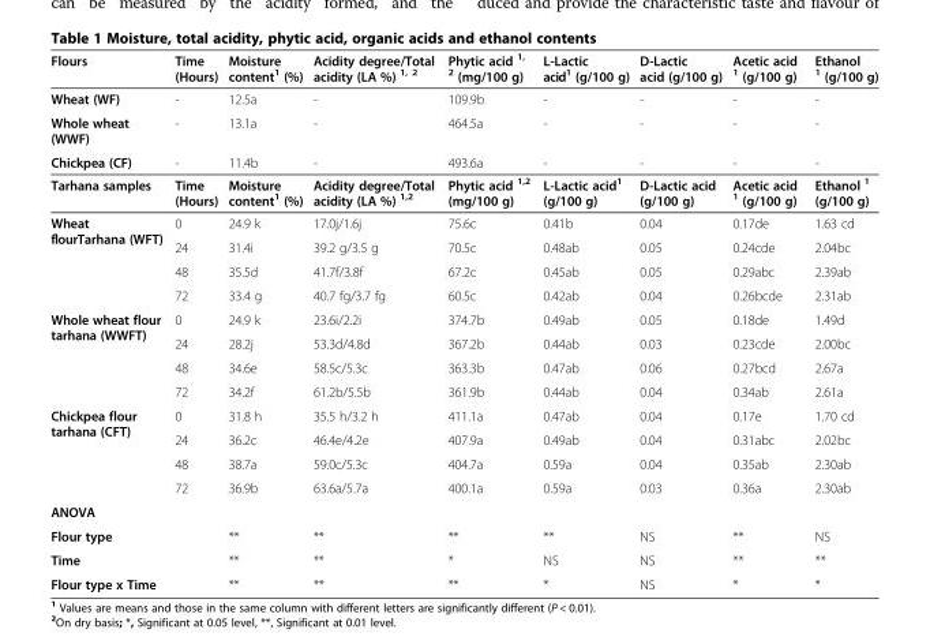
<table><thead><tr><td>Flours</td><td>Time (Hours)</td><td>Moisture content<sup>1</sup> (%)</td><td>Acidity degree/Total acidity (LA %) <sup>1, 2</sup></td><td>Phytic acid <sup>1, 2</sup> (mg/100 g)</td><td>L-Lactic acid<sup>1</sup> (g/100 g)</td><td>D-Lactic acid (g/100 g)</td><td>Acetic acid <sup>1</sup> (g/100 g)</td><td>Ethanol <sup>1</sup> (g/100 g)</td></tr></thead><tbody><tr><td>Wheat (WF)</td><td>-</td><td>12.5a</td><td>-</td><td>109.9b</td><td>-</td><td>-</td><td>-</td><td>-</td></tr><tr><td>Whole wheat (WWF)</td><td>-</td><td>13.1a</td><td>-</td><td>464.5a</td><td>-</td><td>-</td><td>-</td><td>-</td></tr><tr><td>Chickpea (CF)</td><td>-</td><td>11.4b</td><td>-</td><td>493.6a</td><td>-</td><td>-</td><td>-</td><td>-</td></tr><tr><td>Tarhana samples</td><td>Time (Hours)</td><td>Moisture content<sup>1</sup> (%)</td><td>Acidity degree/Total acidity (LA %) <sup>1,2</sup></td><td>Phytic acid <sup>1,2</sup> (mg/100 g)</td><td>L-Lactic acid<sup>1</sup> (g/100 g)</td><td>D-Lactic acid (g/100 g)</td><td>Acetic acid <sup>1</sup> (g/100 g)</td><td>Ethanol <sup>1</sup> (g/100 g)</td></tr><tr><td rowspan="4">Wheat flourTarhana (WFT)</td><td>0</td><td>24.9 k</td><td>17.0j/1.6j</td><td>75.6c</td><td>0.41b</td><td>0.04</td><td>0.17de</td><td>1.63 cd</td></tr><tr><td>24</td><td>31.4i</td><td>39.2 g/3.5 g</td><td>70.5c</td><td>0.48ab</td><td>0.05</td><td>0.24cde</td><td>2.04bc</td></tr><tr><td>48</td><td>35.5d</td><td>41.7f/3.8f</td><td>67.2c</td><td>0.45ab</td><td>0.05</td><td>0.29abc</td><td>2.39ab</td></tr><tr><td>72</td><td>33.4 g</td><td>40.7 fg/3.7 fg</td><td>60.5c</td><td>0.42ab</td><td>0.04</td><td>0.26bcde</td><td>2.31ab</td></tr><tr><td rowspan="4">Whole wheat flour tarhana (WWFT)</td><td>0</td><td>24.9 k</td><td>23.6i/2.2i</td><td>374.7b</td><td>0.49ab</td><td>0.05</td><td>0.18de</td><td>1.49d</td></tr><tr><td>24</td><td>28.2j</td><td>53.3d/4.8d</td><td>367.2b</td><td>0.44ab</td><td>0.03</td><td>0.23cde</td><td>2.00bc</td></tr><tr><td>48</td><td>34.6e</td><td>58.5c/5.3c</td><td>363.3b</td><td>0.47ab</td><td>0.06</td><td>0.27bcd</td><td>2.67a</td></tr><tr><td>72</td><td>34.2f</td><td>61.2b/5.5b</td><td>361.9b</td><td>0.44ab</td><td>0.04</td><td>0.34ab</td><td>2.61a</td></tr><tr><td rowspan="4">Chickpea flour tarhana (CFT)</td><td>0</td><td>31.8 h</td><td>35.5 h/3.2 h</td><td>411.1a</td><td>0.47ab</td><td>0.04</td><td>0.17e</td><td>1.70 cd</td></tr><tr><td>24</td><td>36.2c</td><td>46.4e/4.2e</td><td>407.9a</td><td>0.49ab</td><td>0.04</td><td>0.31abc</td><td>2.02bc</td></tr><tr><td>48</td><td>38.7a</td><td>59.0c/5.3c</td><td>404.7a</td><td>0.59a</td><td>0.04</td><td>0.35ab</td><td>2.30ab</td></tr><tr><td>72</td><td>36.9b</td><td>63.6a/5.7a</td><td>400.1a</td><td>0.59a</td><td>0.03</td><td>0.36a</td><td>2.30ab</td></tr><tr><td colspan="9">ANOVA</td></tr><tr><td>Flour type</td><td></td><td>**</td><td>**</td><td>**</td><td>**</td><td>NS</td><td>**</td><td>NS</td></tr><tr><td>Time</td><td></td><td>**</td><td>**</td><td>*</td><td>NS</td><td>NS</td><td>**</td><td>**</td></tr><tr><td>Flour type x Time</td><td></td><td>**</td><td>**</td><td>**</td><td>*</td><td>NS</td><td>*</td><td>*</td></tr></tbody></table>